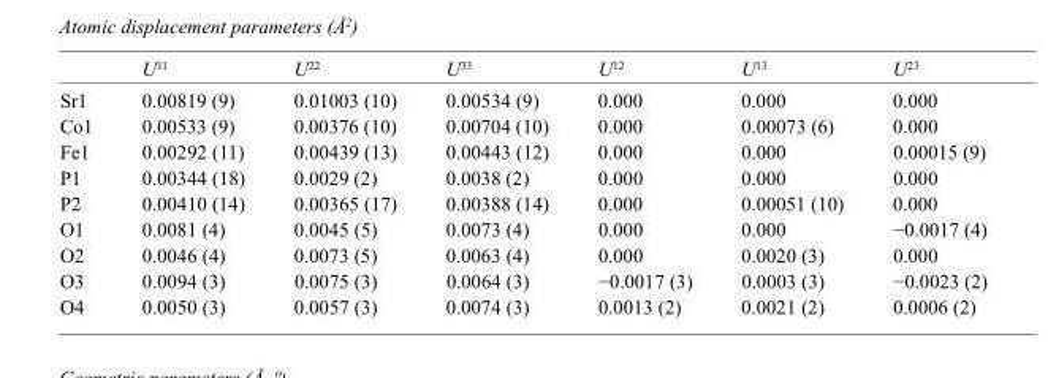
<table><thead><tr><td></td><td>U<sup>11</sup></td><td>U<sup>22</sup></td><td>U<sup>33</sup></td><td>U<sup>12</sup></td><td>U<sup>13</sup></td><td>U<sup>23</sup></td></tr></thead><tbody><tr><td>Sr1</td><td>0.00819 (9)</td><td>0.01003 (10)</td><td>0.00534 (9)</td><td>0.000</td><td>0.000</td><td>0.000</td></tr><tr><td>Co1</td><td>0.00533 (9)</td><td>0.00376 (10)</td><td>0.00704 (10)</td><td>0.000</td><td>0.00073 (6)</td><td>0.000</td></tr><tr><td>Fe1</td><td>0.00292 (11)</td><td>0.00439 (13)</td><td>0.00443 (12)</td><td>0.000</td><td>0.000</td><td>0.00015 (9)</td></tr><tr><td>P1</td><td>0.00344 (18)</td><td>0.0029 (2)</td><td>0.0038 (2)</td><td>0.000</td><td>0.000</td><td>0.000</td></tr><tr><td>P2</td><td>0.00410 (14)</td><td>0.00365 (17)</td><td>0.00388 (14)</td><td>0.000</td><td>0.00051 (10)</td><td>0.000</td></tr><tr><td>O1</td><td>0.0081 (4)</td><td>0.0045 (5)</td><td>0.0073 (4)</td><td>0.000</td><td>0.000</td><td>−0.0017 (4)</td></tr><tr><td>O2</td><td>0.0046 (4)</td><td>0.0073 (5)</td><td>0.0063 (4)</td><td>0.000</td><td>0.0020 (3)</td><td>0.000</td></tr><tr><td>O3</td><td>0.0094 (3)</td><td>0.0075 (3)</td><td>0.0064 (3)</td><td>−0.0017 (3)</td><td>0.0003 (3)</td><td>−0.0023 (2)</td></tr><tr><td>O4</td><td>0.0050 (3)</td><td>0.0057 (3)</td><td>0.0074 (3)</td><td>0.0013 (2)</td><td>0.0021 (2)</td><td>0.0006 (2)</td></tr></tbody></table>